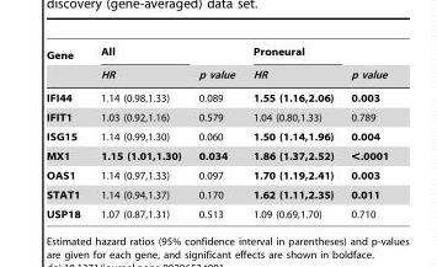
<table><thead><tr><td rowspan="2">Gene</td><td rowspan="2">All HR</td><td rowspan="2">p value</td><td rowspan="2">Proneural HR</td><td rowspan="2">p value</td></tr><tr></tr></thead><tbody><tr><td>IFI44</td><td>1.14 (0.98,1.33)</td><td>0.089</td><td>1.55 (1.16,2.06)</td><td>0.003</td></tr><tr><td>IFIT1</td><td>1.03 (0.92,1.16)</td><td>0.579</td><td>1.04 (0.80,1.33)</td><td>0.789</td></tr><tr><td>ISG15</td><td>1.14 (0.99,1.30)</td><td>0.060</td><td>1.50 (1.14,1.96)</td><td>0.004</td></tr><tr><td>MX1</td><td>1.15 (1.01,1.30)</td><td>0.034</td><td>1.86 (1.37,2.52)</td><td>&lt;.0001</td></tr><tr><td>OAS1</td><td>1.14 (0.97,1.33)</td><td>0.097</td><td>1.70 (1.19,2.41)</td><td>0.003</td></tr><tr><td>STAT1</td><td>1.14 (0.94,1.37)</td><td>0.170</td><td>1.62 (1.11,2.35)</td><td>0.011</td></tr><tr><td>USP18</td><td>1.07 (0.87,1.31)</td><td>0.513</td><td>1.09 (0.69,1.70)</td><td>0.710</td></tr></tbody></table>